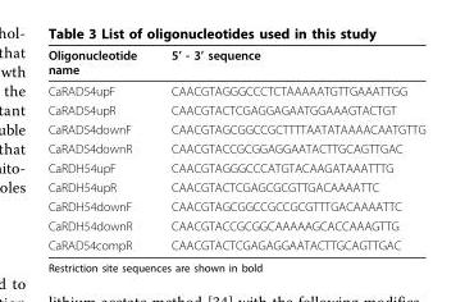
<table><thead><tr><td>Oligonucleotide name</td><td>5’ - 3’ sequence</td></tr></thead><tbody><tr><td>CaRAD54upF</td><td>CAACGTAGGGCCCTCTAAAAATGTTGAAATTGG</td></tr><tr><td>CaRAD54upR</td><td>CAACGTACTCGAGGAGAATGGAAAGTACTGT</td></tr><tr><td>CaRAD54downF</td><td>CAACGTAGCGGCCGCTTTTAATATAAAACAATGTTG</td></tr><tr><td>CaRAD54downR</td><td>CAACGTACCGCGGAGGAATACTTGCAGTTGAC</td></tr><tr><td>CaRDH54upF</td><td>CAACGTAGGGCCCATGTACAAGATAAATTTG</td></tr><tr><td>CaRDH54upR</td><td>CAACGTACTCGAGCGCGTTGACAAAATTC</td></tr><tr><td>CaRDH54downF</td><td>CAACGTAGCGGCCGCCGCGTTTGACAAAATTC</td></tr><tr><td>CaRDH54downR</td><td>CAACGTACCGCGGCAAAAAGCACCAAAGTTG</td></tr><tr><td>CaRAD54compR</td><td>CAACGTACTCGAGAGGAATACTTGCAGTTGAC</td></tr></tbody></table>